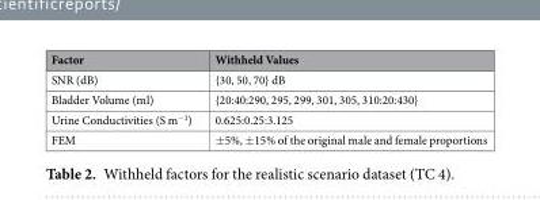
<table><thead><tr><td>Factor</td><td>Withheld Values</td></tr></thead><tbody><tr><td>SNR (dB)</td><td>{30, 50, 70} dB</td></tr><tr><td>Bladder Volume (ml)</td><td>{20:40:290, 295, 299, 301, 305, 310:20:430}</td></tr><tr><td>Urine Conductivities (S m<sup>−1</sup>)</td><td>0.625:0.25:3.125</td></tr><tr><td>FEM</td><td>±5%, ±15% of the original male and female proportions</td></tr></tbody></table>